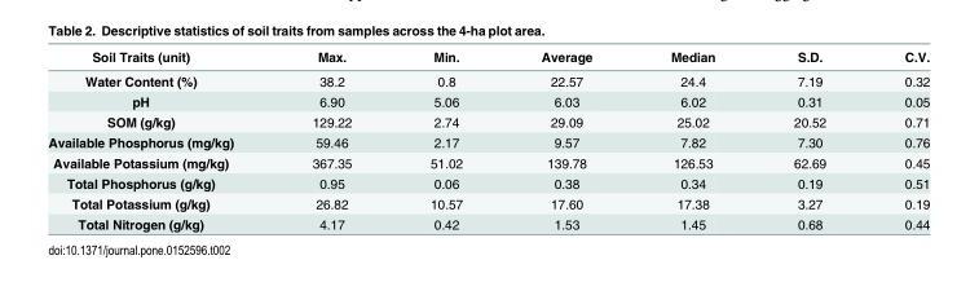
<table><thead><tr><td>Soil Traits (unit)</td><td>Max.</td><td>Min.</td><td>Average</td><td>Median</td><td>S.D.</td><td>C.V.</td></tr></thead><tbody><tr><td>Water Content (%)</td><td>38.2</td><td>0.8</td><td>22.57</td><td>24.4</td><td>7.19</td><td>0.32</td></tr><tr><td>pH</td><td>6.90</td><td>5.06</td><td>6.03</td><td>6.02</td><td>0.31</td><td>0.05</td></tr><tr><td>SOM (g/kg)</td><td>129.22</td><td>2.74</td><td>29.09</td><td>25.02</td><td>20.52</td><td>0.71</td></tr><tr><td>Available Phosphorus (mg/kg)</td><td>59.46</td><td>2.17</td><td>9.57</td><td>7.82</td><td>7.30</td><td>0.76</td></tr><tr><td>Available Potassium (mg/kg)</td><td>367.35</td><td>51.02</td><td>139.78</td><td>126.53</td><td>62.69</td><td>0.45</td></tr><tr><td>Total Phosphorus (g/kg)</td><td>0.95</td><td>0.06</td><td>0.38</td><td>0.34</td><td>0.19</td><td>0.51</td></tr><tr><td>Total Potassium (g/kg)</td><td>26.82</td><td>10.57</td><td>17.60</td><td>17.38</td><td>3.27</td><td>0.19</td></tr><tr><td>Total Nitrogen (g/kg)</td><td>4.17</td><td>0.42</td><td>1.53</td><td>1.45</td><td>0.68</td><td>0.44</td></tr></tbody></table>